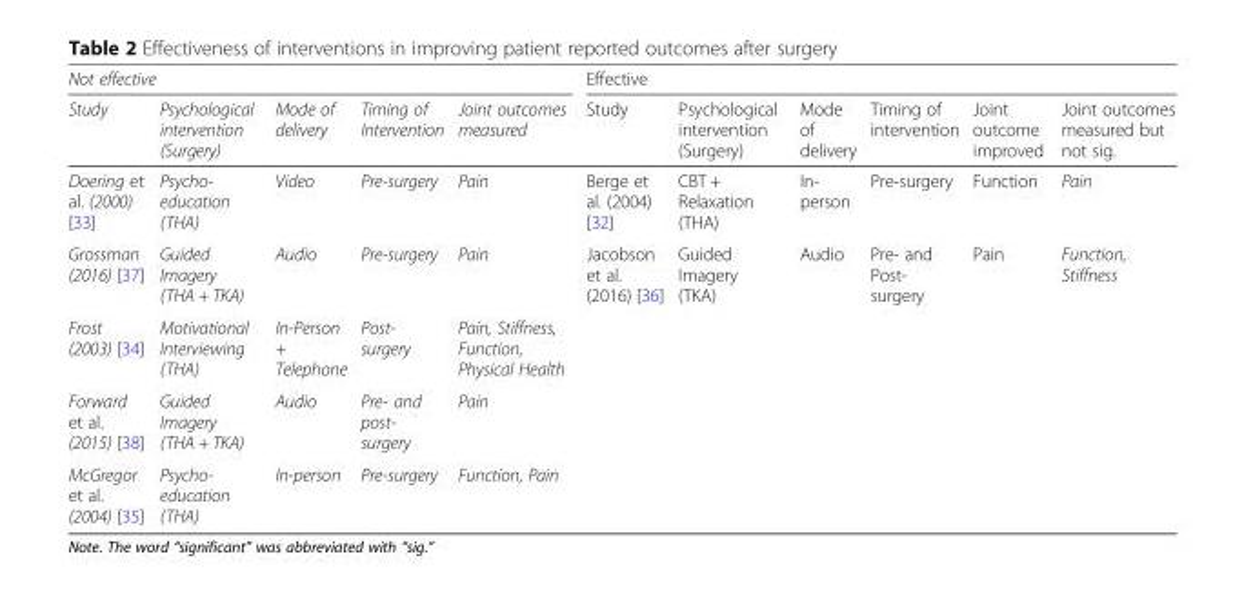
<table><thead><tr><td colspan="5">Not effective</td><td colspan="6">Effective</td></tr><tr><td>Study</td><td>Psychological intervention (Surgery)</td><td>Mode of delivery</td><td>Timing of Intervention</td><td>Joint outcomes measured</td><td>Study</td><td>Psychological intervention (Surgery)</td><td>Mode of delivery</td><td>Timing of intervention</td><td>Joint outcome improved</td><td>Joint outcomes measured but not sig.</td></tr></thead><tbody><tr><td>Doering et al. (2000) [33]</td><td>Psycho- education (THA)</td><td>Video</td><td>Pre-surgery</td><td>Pain</td><td>Berge et al. (2004) [32]</td><td>CBT + Relaxation (THA)</td><td>In- person</td><td>Pre-surgery</td><td>Function</td><td>Pain</td></tr><tr><td>Grossman (2016) [37]</td><td>Guided Imagery (THA + TKA)</td><td>Audio</td><td>Pre-surgery</td><td>Pain</td><td>Jacobson et al. (2016) [36]</td><td>Guided Imagery (TKA)</td><td>Audio</td><td>Pre- and Post- surgery</td><td>Pain</td><td>Function, Stiffness</td></tr><tr><td>Frost (2003) [34]</td><td>Motivational Interviewing (THA)</td><td>In-Person + Telephone</td><td>Post- surgery</td><td>Pain, Stiffness, Function, Physical Health</td><td></td><td></td><td></td><td></td><td></td><td></td></tr><tr><td>Forward et al. (2015) [38]</td><td>Guided Imagery (THA + TKA)</td><td>Audio</td><td>Pre- and post- surgery</td><td>Pain</td><td></td><td></td><td></td><td></td><td></td><td></td></tr><tr><td>McGregor et al. (2004) [35]</td><td>Psycho- education (THA)</td><td>In-person</td><td>Pre-surgery</td><td>Function, Pain</td><td></td><td></td><td></td><td></td><td></td><td></td></tr></tbody></table>